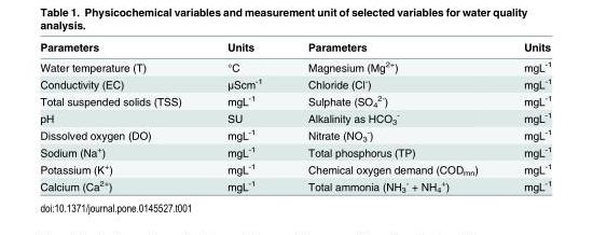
<table><thead><tr><td>Parameters</td><td>Units</td><td>Parameters</td><td>Units</td></tr></thead><tbody><tr><td>Water temperature (T)</td><td>°C</td><td>Magnesium (Mg<sup>2+</sup>)</td><td>mgL<sup>-1</sup></td></tr><tr><td>Conductivity (EC)</td><td>μScm<sup>-1</sup></td><td>Chloride (Cl<sup>-</sup>)</td><td>mgL<sup>-1</sup></td></tr><tr><td>Total suspended solids (TSS)</td><td>mgL<sup>-1</sup></td><td>Sulphate (SO<sub>4</sub> <sup>2-</sup>)</td><td>mgL<sup>-1</sup></td></tr><tr><td>pH</td><td>SU</td><td>Alkalinity as HCO<sub>3</sub> <sup>-</sup></td><td>mgL<sup>-1</sup></td></tr><tr><td>Dissolved oxygen (DO)</td><td>mgL<sup>-1</sup></td><td>Nitrate (NO<sub>3</sub> <sup>-</sup>)</td><td>mgL<sup>-1</sup></td></tr><tr><td>Sodium (Na<sup>+</sup>)</td><td>mgL<sup>-1</sup></td><td>Total phosphorus (TP)</td><td>mgL<sup>-1</sup></td></tr><tr><td>Potassium (K<sup>+</sup>)</td><td>mgL<sup>-1</sup></td><td>Chemical oxygen demand (COD<sub>mn</sub>)</td><td>mgL<sup>-1</sup></td></tr><tr><td>Calcium (Ca<sup>2+</sup>)</td><td>mgL<sup>-1</sup></td><td>Total ammonia (NH<sub>3</sub> <sup>-</sup> + NH<sub>4</sub> <sup>+</sup>)</td><td>mgL<sup>-1</sup></td></tr></tbody></table>